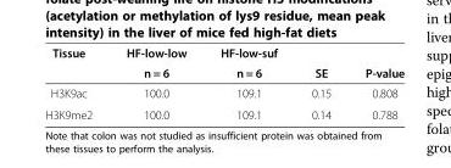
<table><thead><tr><td rowspan="2">Tissue</td><td rowspan="2">HF-low-low n = 6</td><td rowspan="2">HF-low-suf n = 6</td><td rowspan="2">SE</td><td rowspan="2">P-value</td></tr><tr></tr></thead><tbody><tr><td>H3K9ac</td><td>100.0</td><td>109.1</td><td>0.15</td><td>0.808</td></tr><tr><td>H3K9me2</td><td>100.0</td><td>109.1</td><td>0.14</td><td>0.788</td></tr></tbody></table>